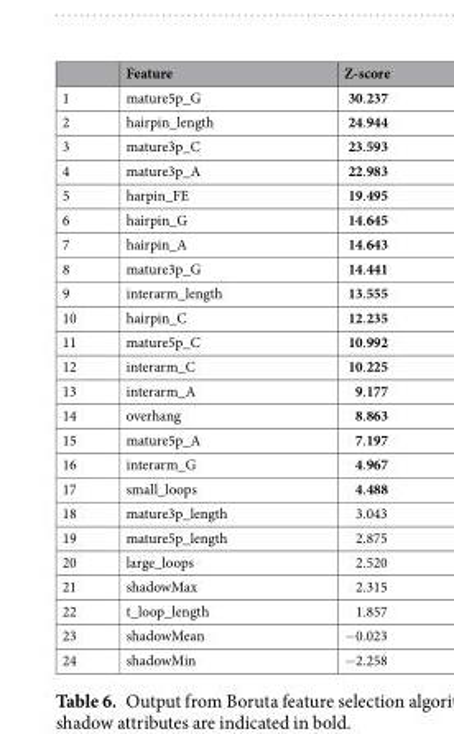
<table><thead><tr><td></td><td>Feature</td><td>Z-score</td></tr></thead><tbody><tr><td>1</td><td>mature5p_G</td><td>30.237</td></tr><tr><td>2</td><td>hairpin_length</td><td>24.944</td></tr><tr><td>3</td><td>mature3p_C</td><td>23.593</td></tr><tr><td>4</td><td>mature3p_A</td><td>22.983</td></tr><tr><td>5</td><td>harpin_FE</td><td>19.495</td></tr><tr><td>6</td><td>hairpin_G</td><td>14.645</td></tr><tr><td>7</td><td>hairpin_A</td><td>14.643</td></tr><tr><td>8</td><td>mature3p_G</td><td>14.441</td></tr><tr><td>9</td><td>interarm_length</td><td>13.555</td></tr><tr><td>10</td><td>hairpin_C</td><td>12.235</td></tr><tr><td>11</td><td>mature5p_C</td><td>10.992</td></tr><tr><td>12</td><td>interarm_C</td><td>10.225</td></tr><tr><td>13</td><td>interarm_A</td><td>9.177</td></tr><tr><td>14</td><td>overhang</td><td>8.863</td></tr><tr><td>15</td><td>mature5p_A</td><td>7.197</td></tr><tr><td>16</td><td>interarm_G</td><td>4.967</td></tr><tr><td>17</td><td>small_loops</td><td>4.488</td></tr><tr><td>18</td><td>mature3p_length</td><td>3.043</td></tr><tr><td>19</td><td>mature5p_length</td><td>2.875</td></tr><tr><td>20</td><td>large_loops</td><td>2.520</td></tr><tr><td>21</td><td>shadowMax</td><td>2.315</td></tr><tr><td>22</td><td>t_loop_length</td><td>1.857</td></tr><tr><td>23</td><td>shadowMean</td><td>−0.023</td></tr><tr><td>24</td><td>shadowMin</td><td>−2.258</td></tr></tbody></table>